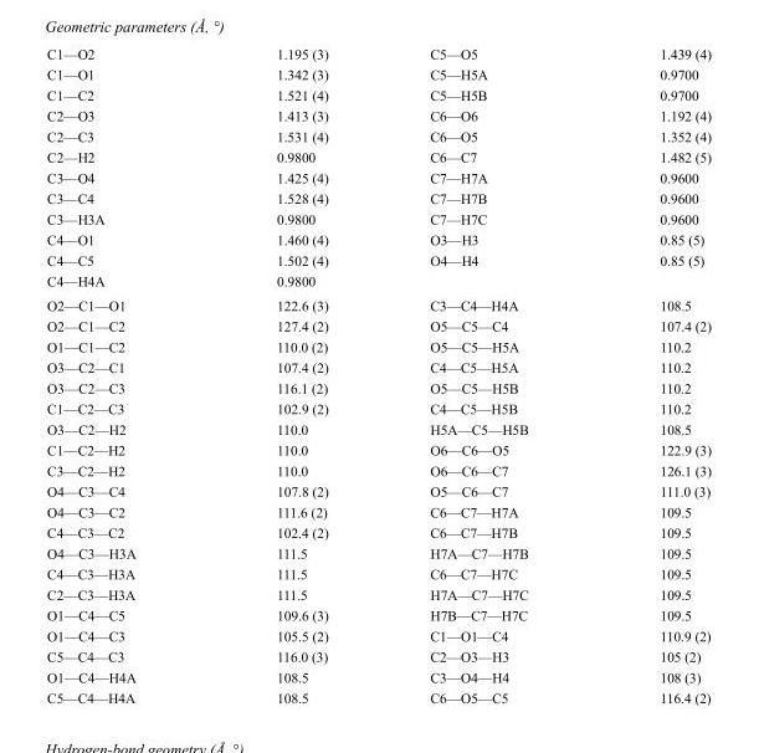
<table><tbody><tr><td>C1—O2</td><td>1.195 (3)</td><td>C5—O5</td><td>1.439 (4)</td></tr><tr><td>C1—O1</td><td>1.342 (3)</td><td>C5—H5A</td><td>0.9700</td></tr><tr><td>C1—C2</td><td>1.521 (4)</td><td>C5—H5B</td><td>0.9700</td></tr><tr><td>C2—O3</td><td>1.413 (3)</td><td>C6—O6</td><td>1.192 (4)</td></tr><tr><td>C2—C3</td><td>1.531 (4)</td><td>C6—O5</td><td>1.352 (4)</td></tr><tr><td>C2—H2</td><td>0.9800</td><td>C6—C7</td><td>1.482 (5)</td></tr><tr><td>C3—O4</td><td>1.425 (4)</td><td>C7—H7A</td><td>0.9600</td></tr><tr><td>C3—C4</td><td>1.528 (4)</td><td>C7—H7B</td><td>0.9600</td></tr><tr><td>C3—H3A</td><td>0.9800</td><td>C7—H7C</td><td>0.9600</td></tr><tr><td>C4—O1</td><td>1.460 (4)</td><td>O3—H3</td><td>0.85 (5)</td></tr><tr><td>C4—C5</td><td>1.502 (4)</td><td>O4—H4</td><td>0.85 (5)</td></tr><tr><td>C4—H4A</td><td>0.9800</td><td></td><td></td></tr><tr><td>O2—C1—O1</td><td>122.6 (3)</td><td>C3—C4—H4A</td><td>108.5</td></tr><tr><td>O2—C1—C2</td><td>127.4 (2)</td><td>O5—C5—C4</td><td>107.4 (2)</td></tr><tr><td>O1—C1—C2</td><td>110.0 (2)</td><td>O5—C5—H5A</td><td>110.2</td></tr><tr><td>O3—C2—C1</td><td>107.4 (2)</td><td>C4—C5—H5A</td><td>110.2</td></tr><tr><td>O3—C2—C3</td><td>116.1 (2)</td><td>O5—C5—H5B</td><td>110.2</td></tr><tr><td>C1—C2—C3</td><td>102.9 (2)</td><td>C4—C5—H5B</td><td>110.2</td></tr><tr><td>O3—C2—H2</td><td>110.0</td><td>H5A—C5—H5B</td><td>108.5</td></tr><tr><td>C1—C2—H2</td><td>110.0</td><td>O6—C6—O5</td><td>122.9 (3)</td></tr><tr><td>C3—C2—H2</td><td>110.0</td><td>O6—C6—C7</td><td>126.1 (3)</td></tr><tr><td>O4—C3—C4</td><td>107.8 (2)</td><td>O5—C6—C7</td><td>111.0 (3)</td></tr><tr><td>O4—C3—C2</td><td>111.6 (2)</td><td>C6—C7—H7A</td><td>109.5</td></tr><tr><td>C4—C3—C2</td><td>102.4 (2)</td><td>C6—C7—H7B</td><td>109.5</td></tr><tr><td>O4—C3—H3A</td><td>111.5</td><td>H7A—C7—H7B</td><td>109.5</td></tr><tr><td>C4—C3—H3A</td><td>111.5</td><td>C6—C7—H7C</td><td>109.5</td></tr><tr><td>C2—C3—H3A</td><td>111.5</td><td>H7A—C7—H7C</td><td>109.5</td></tr><tr><td>O1—C4—C5</td><td>109.6 (3)</td><td>H7B—C7—H7C</td><td>109.5</td></tr><tr><td>O1—C4—C3</td><td>105.5 (2)</td><td>C1—O1—C4</td><td>110.9 (2)</td></tr><tr><td>C5—C4—C3</td><td>116.0 (3)</td><td>C2—O3—H3</td><td>105 (2)</td></tr><tr><td>O1—C4—H4A</td><td>108.5</td><td>C3—O4—H4</td><td>108 (3)</td></tr><tr><td>C5—C4—H4A</td><td>108.5</td><td>C6—O5—C5</td><td>116.4 (2)</td></tr></tbody></table>